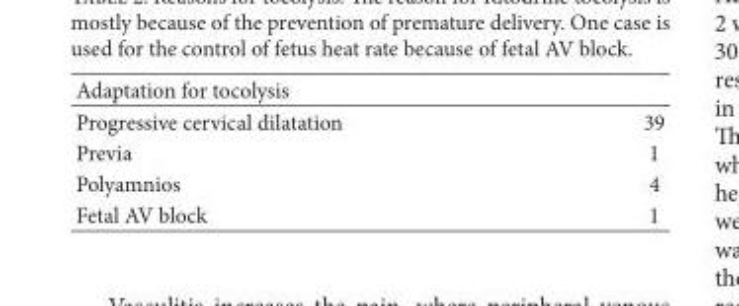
<table><thead><tr><td>Adaptation for tocolysis</td><td></td></tr></thead><tbody><tr><td>Progressive cervical dilatation</td><td>39</td></tr><tr><td>Previa</td><td>1</td></tr><tr><td>Polyamnios</td><td>4</td></tr><tr><td>Fetal AV block</td><td>1</td></tr></tbody></table>